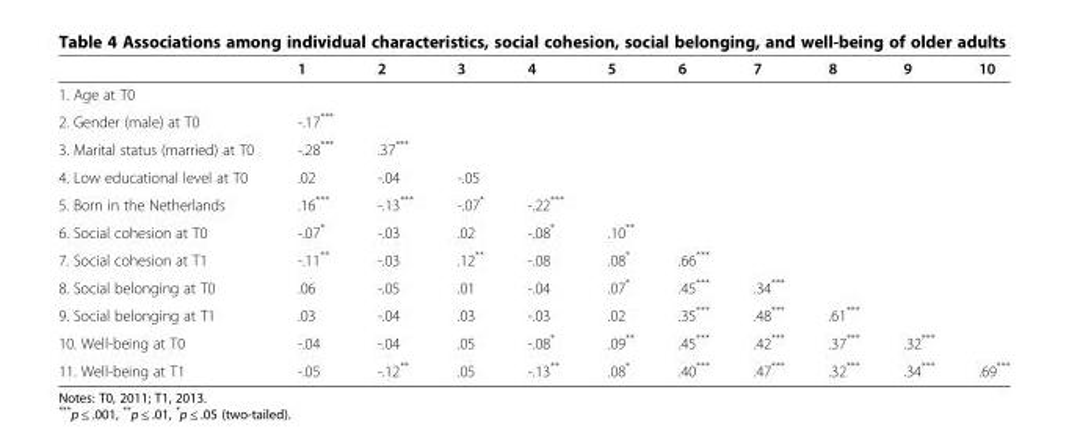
<table><thead><tr><td></td><td>1</td><td>2</td><td>3</td><td>4</td><td>5</td><td>6</td><td>7</td><td>8</td><td>9</td><td>10</td></tr></thead><tbody><tr><td colspan="11">1. Age at T0</td></tr><tr><td>2. Gender (male) at T0</td><td>-.17***</td><td></td><td></td><td></td><td></td><td></td><td></td><td></td><td></td><td></td></tr><tr><td>3. Marital status (married) at T0</td><td>-.28***</td><td>.37***</td><td></td><td></td><td></td><td></td><td></td><td></td><td></td><td></td></tr><tr><td>4. Low educational level at T0</td><td>.02</td><td>-.04</td><td>-.05</td><td></td><td></td><td></td><td></td><td></td><td></td><td></td></tr><tr><td>5. Born in the Netherlands</td><td>.16***</td><td>-.13***</td><td>-.07*</td><td>-.22***</td><td></td><td></td><td></td><td></td><td></td><td></td></tr><tr><td>6. Social cohesion at T0</td><td>-.07*</td><td>-.03</td><td>.02</td><td>-.08*</td><td>.10**</td><td></td><td></td><td></td><td></td><td></td></tr><tr><td>7. Social cohesion at T1</td><td>-.11**</td><td>-.03</td><td>.12**</td><td>-.08</td><td>.08*</td><td>.66***</td><td></td><td></td><td></td><td></td></tr><tr><td>8. Social belonging at T0</td><td>.06</td><td>-.05</td><td>.01</td><td>-.04</td><td>.07*</td><td>.45***</td><td>.34***</td><td></td><td></td><td></td></tr><tr><td>9. Social belonging at T1</td><td>.03</td><td>-.04</td><td>.03</td><td>-.03</td><td>.02</td><td>.35***</td><td>.48***</td><td>.61***</td><td></td><td></td></tr><tr><td>10. Well-being at T0</td><td>-.04</td><td>-.04</td><td>.05</td><td>-.08*</td><td>.09**</td><td>.45***</td><td>.42***</td><td>.37***</td><td>.32***</td><td></td></tr><tr><td>11. Well-being at T1</td><td>-.05</td><td>-.12**</td><td>.05</td><td>-.13**</td><td>.08*</td><td>.40***</td><td>.47***</td><td>.32***</td><td>.34***</td><td>.69***</td></tr></tbody></table>